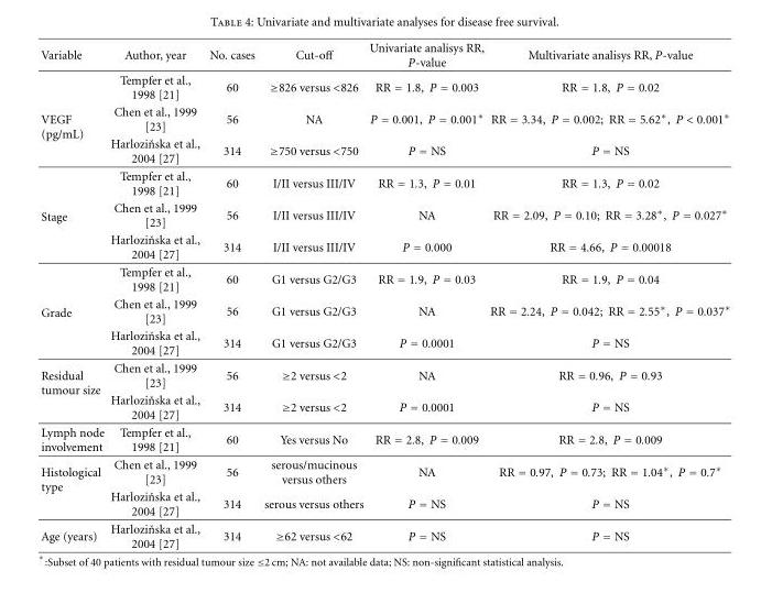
<table><thead><tr><td>Variable</td><td>Author, year</td><td>No. cases</td><td>Cut-off</td><td>Univariate analisys RR, P-value</td><td>Multivariate analisys RR, P-value</td></tr></thead><tbody><tr><td></td><td>Tempfer et al., 1998 [21]</td><td>60</td><td>≥826 versus &lt;826</td><td>RR = 1.8, P = 0.003</td><td>RR = 1.8, P = 0.02</td></tr><tr><td rowspan="2">VEGF (pg/mL)</td><td>Chen et al., 1999 [23]</td><td>56</td><td>NA</td><td>P = 0.001, P = 0.001∗</td><td>RR = 3.34, P = 0.002; RR = 5.62∗, P &lt; 0.001∗</td></tr><tr><td>Harloziˇnska et al., 2004 [27]</td><td>314</td><td>≥750 versus &lt;750</td><td>P = NS</td><td>P = NS</td></tr><tr><td rowspan="3">Stage</td><td>Tempfer et al., 1998 [21]</td><td>60</td><td>I/II versus III/IV</td><td>RR = 1.3, P = 0.01</td><td>RR = 1.3, P = 0.02</td></tr><tr><td>Chen et al., 1999 [23]</td><td>56</td><td>I/II versus III/IV</td><td>NA</td><td>RR = 2.09, P = 0.10; RR = 3.28∗, P = 0.027∗</td></tr><tr><td>Harloziˇnska et al., 2004 [27]</td><td>314</td><td>I/II versus III/IV</td><td>P = 0.000</td><td>RR = 4.66, P = 0.00018</td></tr><tr><td rowspan="3">Grade</td><td>Tempfer et al., 1998 [21]</td><td>60</td><td>G1 versus G2/G3</td><td>RR = 1.9, P = 0.03</td><td>RR = 1.9, P = 0.04</td></tr><tr><td>Chen et al., 1999 [23]</td><td>56</td><td>G1 versus G2/G3</td><td>NA</td><td>RR = 2.24, P = 0.042; RR = 2.55∗, P = 0.037∗</td></tr><tr><td>Harloziˇnska et al., 2004 [27]</td><td>314</td><td>G1 versus G2/G3</td><td>P = 0.0001</td><td>P = NS</td></tr><tr><td rowspan="2">Residual tumour size</td><td>Chen et al., 1999 [23]</td><td>56</td><td>≥2 versus &lt;2</td><td>NA</td><td>RR = 0.96, P = 0.93</td></tr><tr><td>Harloziˇnska et al., 2004 [27]</td><td>314</td><td>≥2 versus &lt;2</td><td>P = 0.0001</td><td>P = NS</td></tr><tr><td>Lymph node involvement</td><td>Tempfer et al., 1998 [21]</td><td>60</td><td>Yes versus No</td><td>RR = 2.8, P = 0.009</td><td>RR = 2.8, P = 0.009</td></tr><tr><td rowspan="2">Histological type</td><td>Chen et al., 1999 [23]</td><td>56</td><td>serous/mucinous versus others</td><td>NA</td><td>RR = 0.97, P = 0.73; RR = 1.04∗, P = 0.7∗</td></tr><tr><td>Harloziˇnska et al., 2004 [27]</td><td>314</td><td>serous versus others</td><td>P = NS</td><td>P = NS</td></tr><tr><td>Age (years)</td><td>Harloziˇnska et al., 2004 [27]</td><td>314</td><td>≥62 versus &lt;62</td><td>P = NS</td><td>P = NS</td></tr></tbody></table>